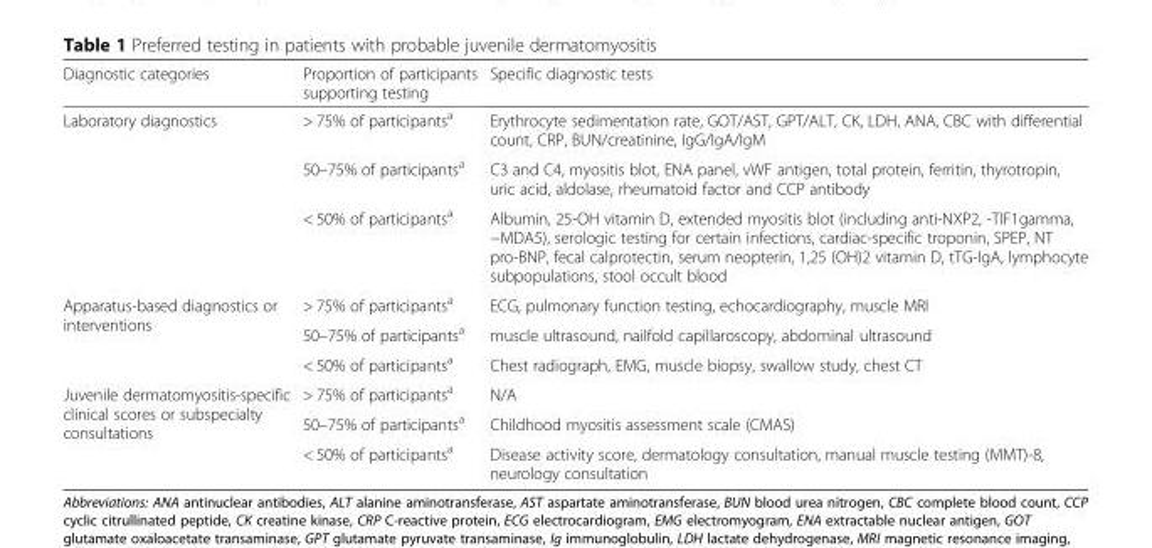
<table><thead><tr><td>Diagnostic categories</td><td>Proportion of participants supporting testing</td><td>Specific diagnostic tests</td></tr></thead><tbody><tr><td rowspan="3">Laboratory diagnostics</td><td>&gt; 75% of participants<sup>a</sup></td><td>Erythrocyte sedimentation rate, GOT/AST, GPT/ALT, CK, LDH, ANA, CBC with differential count, CRP, BUN/creatinine, IgG/IgA/IgM</td></tr><tr><td>50–75% of participants<sup>a</sup></td><td>C3 and C4, myositis blot, ENA panel, vWF antigen, total protein, ferritin, thyrotropin, uric acid, aldolase, rheumatoid factor and CCP antibody</td></tr><tr><td>&lt; 50% of participants<sup>a</sup></td><td>Albumin, 25-OH vitamin D, extended myositis blot (including anti-NXP2, -TIF1gamma, −MDA5), serologic testing for certain infections, cardiac-specific troponin, SPEP, NT pro-BNP, fecal calprotectin, serum neopterin, 1,25 (OH)2 vitamin D, tTG-IgA, lymphocyte subpopulations, stool occult blood</td></tr><tr><td rowspan="3">Apparatus-based diagnostics or interventions</td><td>&gt; 75% of participants<sup>a</sup></td><td>ECG, pulmonary function testing, echocardiography, muscle MRI</td></tr><tr><td>50–75% of participants<sup>a</sup></td><td>muscle ultrasound, nailfold capillaroscopy, abdominal ultrasound</td></tr><tr><td>&lt; 50% of participants<sup>a</sup></td><td>Chest radiograph, EMG, muscle biopsy, swallow study, chest CT</td></tr><tr><td rowspan="3">Juvenile dermatomyositis-specific clinical scores or subspecialty consultations</td><td>&gt; 75% of participants<sup>a</sup></td><td>N/A</td></tr><tr><td>50–75% of participants<sup>a</sup></td><td>Childhood myositis assessment scale (CMAS)</td></tr><tr><td>&lt; 50% of participants<sup>a</sup></td><td>Disease activity score, dermatology consultation, manual muscle testing (MMT)-8, neurology consultation</td></tr></tbody></table>